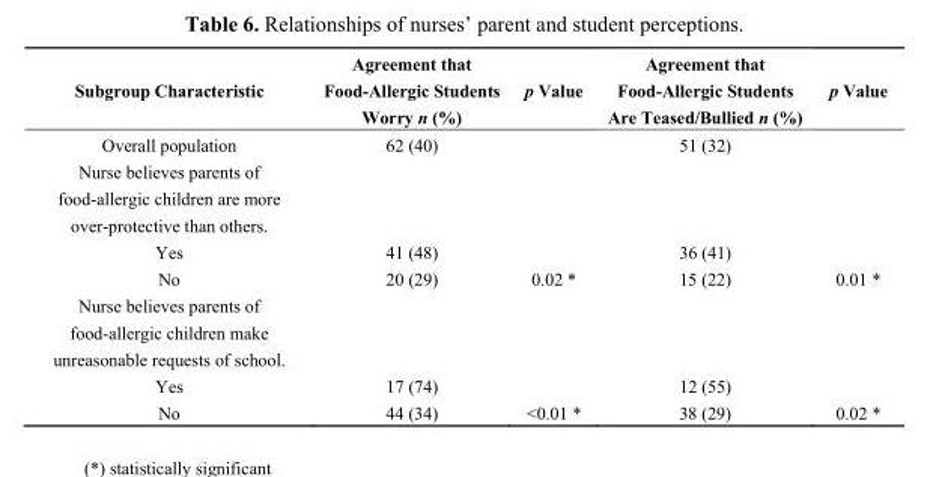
<table><thead><tr><td>Subgroup Characteristic</td><td>Agreement that Food-Allergic Students Worry n (%)</td><td>p Value</td><td>Agreement that Food-Allergic Students Are Teased/Bullied n (%)</td><td>p Value</td></tr></thead><tbody><tr><td>Overall population</td><td>62 (40)</td><td></td><td>51 (32)</td><td></td></tr><tr><td colspan="5">Nurse believes parents of food-allergic children are more over-protective than others.</td></tr><tr><td>Yes</td><td>41 (48)</td><td></td><td>36 (41)</td><td></td></tr><tr><td>No</td><td>20 (29)</td><td>0.02 *</td><td>15 (22)</td><td>0.01 *</td></tr><tr><td colspan="5">Nurse believes parents of food-allergic children make unreasonable requests of school.</td></tr><tr><td>Yes</td><td>17 (74)</td><td></td><td>12 (55)</td><td></td></tr><tr><td>No</td><td>44 (34)</td><td>&lt;0.01 *</td><td>38 (29)</td><td>0.02 *</td></tr></tbody></table>